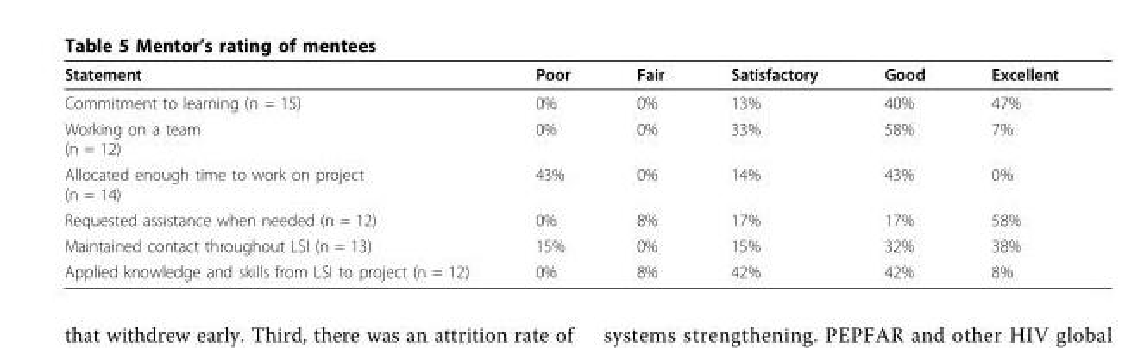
<table><thead><tr><td>Statement</td><td>Poor</td><td>Fair</td><td>Satisfactory</td><td>Good</td><td>Excellent</td></tr></thead><tbody><tr><td>Commitment to learning (n = 15)</td><td>0%</td><td>0%</td><td>13%</td><td>40%</td><td>47%</td></tr><tr><td>Working on a team (n = 12)</td><td>0%</td><td>0%</td><td>33%</td><td>58%</td><td>7%</td></tr><tr><td>Allocated enough time to work on project (n = 14)</td><td>43%</td><td>0%</td><td>14%</td><td>43%</td><td>0%</td></tr><tr><td>Requested assistance when needed (n = 12)</td><td>0%</td><td>8%</td><td>17%</td><td>17%</td><td>58%</td></tr><tr><td>Maintained contact throughout LSI (n = 13)</td><td>15%</td><td>0%</td><td>15%</td><td>32%</td><td>38%</td></tr><tr><td>Applied knowledge and skills from LSI to project (n = 12)</td><td>0%</td><td>8%</td><td>42%</td><td>42%</td><td>8%</td></tr></tbody></table>